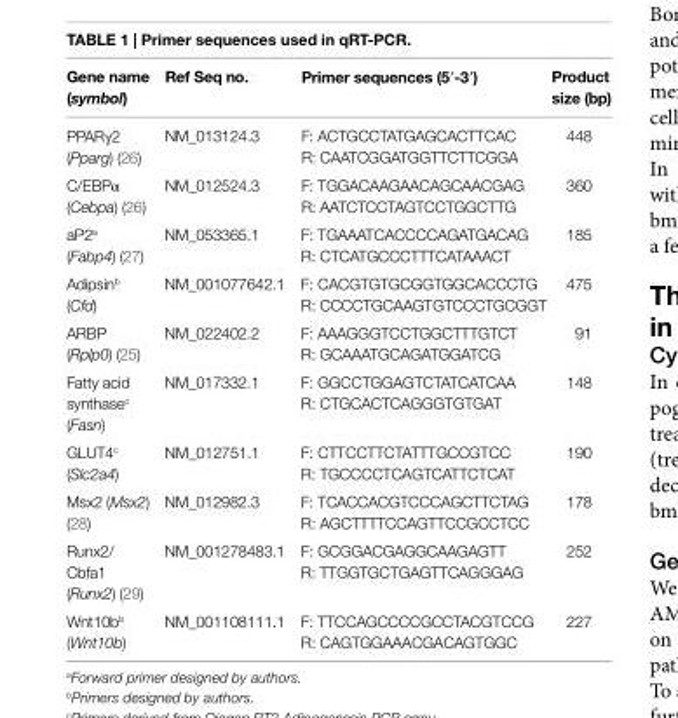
<table><thead><tr><td>gene name (symbol)</td><td>ref seq no.</td><td>Primer sequences (5′-3′)</td><td>Product size (bp)</td></tr></thead><tbody><tr><td rowspan="2">PPARγ2 (Pparg) (26)</td><td rowspan="2">NM_013124.3</td><td>F: ACTGCCTATGAGCACTTCAC</td><td rowspan="2">448</td></tr><tr><td>R: CAATCGGATGGTTCTTCGGA</td></tr><tr><td rowspan="2">C/EBPα (Cebpa) (26)</td><td rowspan="2">NM_012524.3</td><td>F: TGGACAAGAACAGCAACGAG</td><td rowspan="2">360</td></tr><tr><td>R: AATCTCCTAGTCCTGGCTTG</td></tr><tr><td rowspan="2">aP2<sup>a</sup> (Fabp4) (27)</td><td rowspan="2">NM_053365.1</td><td>F: TGAAATCACCCCAGATGACAG</td><td rowspan="2">185</td></tr><tr><td>R: CTCATGCCCTTTCATAAACT</td></tr><tr><td rowspan="2">Adipsin<sup>b</sup> (Cfd)</td><td rowspan="2">NM_001077642.1</td><td>F: CACGTGTGCGGTGGCACCCTG</td><td rowspan="2">475</td></tr><tr><td>R: CCCCTGCAAGTGTCCCTGCGGT</td></tr><tr><td rowspan="2">ARBP (Rplp0) (25)</td><td rowspan="2">NM_022402.2</td><td>F: AAAGGGTCCTGGCTTTGTCT</td><td rowspan="2">91</td></tr><tr><td>R: GCAAATGCAGATGGATCG</td></tr><tr><td rowspan="2">Fatty acid synthase<sup>c</sup> (Fasn)</td><td rowspan="2">NM_017332.1</td><td>F: GGCCTGGAGTCTATCATCAA</td><td rowspan="2">148</td></tr><tr><td>R: CTGCACTCAGGGTGTGAT</td></tr><tr><td rowspan="2">GLUT4<sup>c</sup> (Slc2a4)</td><td rowspan="2">NM_012751.1</td><td>F: CTTCCTTCTATTTGCCGTCC</td><td rowspan="2">190</td></tr><tr><td>R: TGCCCCTCAGTCATTCTCAT</td></tr><tr><td rowspan="2">Msx2 (Msx2) (28)</td><td rowspan="2">NM_012982.3</td><td>F: TCACCACGTCCCAGCTTCTAG</td><td rowspan="2">178</td></tr><tr><td>R: AGCTTTTCCAGTTCCGCCTCC</td></tr><tr><td rowspan="2">Runx2/ Cbfa1 (Runx2) (29)</td><td rowspan="2">NM_001278483.1</td><td>F: GCGGACGAGGCAAGAGTT</td><td rowspan="2">252</td></tr><tr><td>R: TTGGTGCTGAGTTCAGGGAG</td></tr><tr><td rowspan="2">Wnt10b<sup>b</sup> (Wnt10b)</td><td rowspan="2">NM_001108111.1</td><td>F: TTCCAGCCCCGCCTACGTCCG</td><td rowspan="2">227</td></tr><tr><td>R: CAGTGGAAACGACAGTGGC</td></tr></tbody></table>